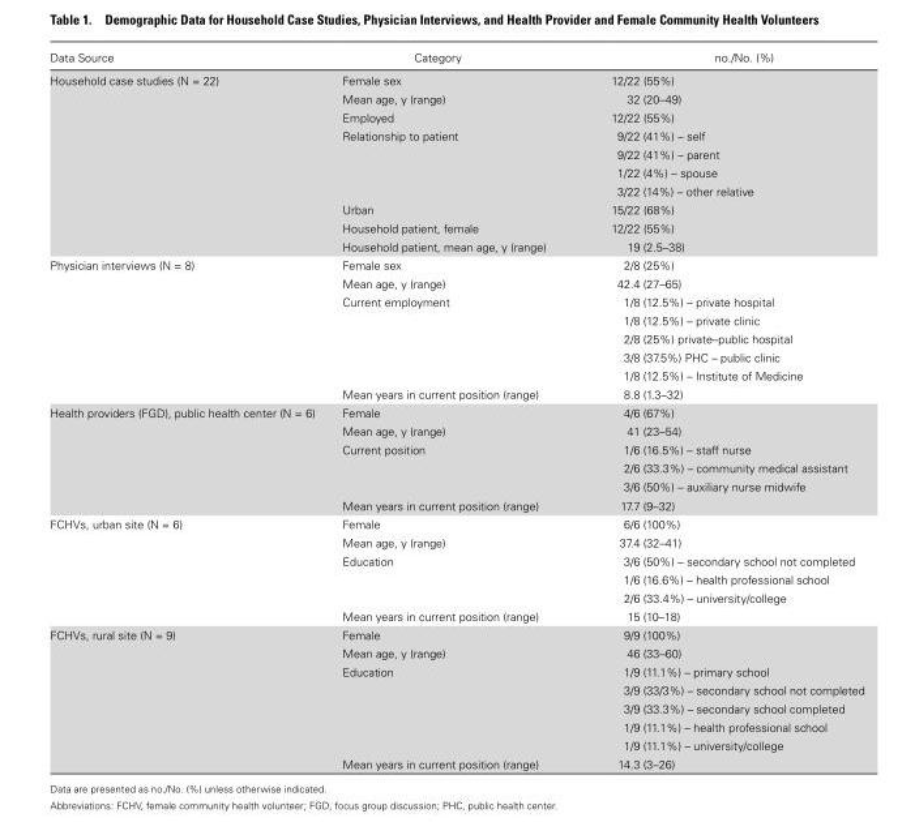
<table><thead><tr><td>Data Source</td><td>Category</td><td>no./No. (%)</td></tr></thead><tbody><tr><td rowspan="10">Household case studies (N = 22)</td><td>Female sex</td><td>12/22 (55%)</td></tr><tr><td>Mean age, y (range)</td><td>32 (20–49)</td></tr><tr><td>Employed</td><td>12/22 (55%)</td></tr><tr><td rowspan="4">Relationship to patient</td><td>9/22 (41%) – self</td></tr><tr><td>9/22 (41%) – parent</td></tr><tr><td>1/22 (4%) – spouse</td></tr><tr><td>3/22 (14%) – other relative</td></tr><tr><td>Urban</td><td>15/22 (68%)</td></tr><tr><td>Household patient, female</td><td>12/22 (55%)</td></tr><tr><td>Household patient, mean age, y (range)</td><td>19 (2.5–38)</td></tr><tr><td rowspan="8">Physician interviews (N = 8)</td><td>Female sex</td><td>2/8 (25%)</td></tr><tr><td>Mean age, y (range)</td><td>42.4 (27–65)</td></tr><tr><td rowspan="5">Current employment</td><td>1/8 (12.5%) – private hospital</td></tr><tr><td>1/8 (12.5%) – private clinic</td></tr><tr><td>2/8 (25%) private–public hospital</td></tr><tr><td>3/8 (37.5%) PHC – public clinic</td></tr><tr><td>1/8 (12.5%) – Institute of Medicine</td></tr><tr><td>Mean years in current position (range)</td><td>8.8 (1.3–32)</td></tr><tr><td rowspan="6">Health providers (FGD), public health center (N = 6)</td><td>Female</td><td>4/6 (67%)</td></tr><tr><td>Mean age, y (range)</td><td>41 (23–54)</td></tr><tr><td rowspan="3">Current position</td><td>1/6 (16.5%) – staff nurse</td></tr><tr><td>2/6 (33.3%) – community medical assistant</td></tr><tr><td>3/6 (50%) – auxiliary nurse midwife</td></tr><tr><td>Mean years in current position (range)</td><td>17.7 (9–32)</td></tr><tr><td rowspan="6">FCHVs, urban site (N = 6)</td><td>Female</td><td>6/6 (100%)</td></tr><tr><td>Mean age, y (range)</td><td>37.4 (32–41)</td></tr><tr><td rowspan="3">Education</td><td>3/6 (50%) – secondary school not completed</td></tr><tr><td>1/6 (16.6%) – health professional school</td></tr><tr><td>2/6 (33.4%) – university/college</td></tr><tr><td>Mean years in current position (range)</td><td>15 (10–18)</td></tr><tr><td rowspan="8">FCHVs, rural site (N = 9)</td><td>Female</td><td>9/9 (100%)</td></tr><tr><td>Mean age, y (range)</td><td>46 (33–60)</td></tr><tr><td rowspan="5">Education</td><td>1/9 (11.1%) – primary school</td></tr><tr><td>3/9 (33/3%) – secondary school not completed</td></tr><tr><td>3/9 (33.3%) – secondary school completed</td></tr><tr><td>1/9 (11.1%) – health professional school</td></tr><tr><td>1/9 (11.1%) – university/college</td></tr><tr><td>Mean years in current position (range)</td><td>14.3 (3–26)</td></tr></tbody></table>